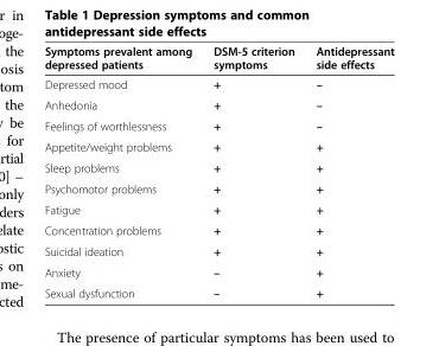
<table><thead><tr><td>Symptoms prevalent among depressed patients</td><td>DSM-5 criterion symptoms</td><td>Antidepressant side effects</td></tr></thead><tbody><tr><td>Depressed mood</td><td>+</td><td>–</td></tr><tr><td>Anhedonia</td><td>+</td><td>–</td></tr><tr><td>Feelings of worthlessness</td><td>+</td><td>–</td></tr><tr><td>Appetite/weight problems</td><td>+</td><td>+</td></tr><tr><td>Sleep problems</td><td>+</td><td>+</td></tr><tr><td>Psychomotor problems</td><td>+</td><td>+</td></tr><tr><td>Fatigue</td><td>+</td><td>+</td></tr><tr><td>Concentration problems</td><td>+</td><td>+</td></tr><tr><td>Suicidal ideation</td><td>+</td><td>+</td></tr><tr><td>Anxiety</td><td>–</td><td>+</td></tr><tr><td>Sexual dysfunction</td><td>–</td><td>+</td></tr></tbody></table>